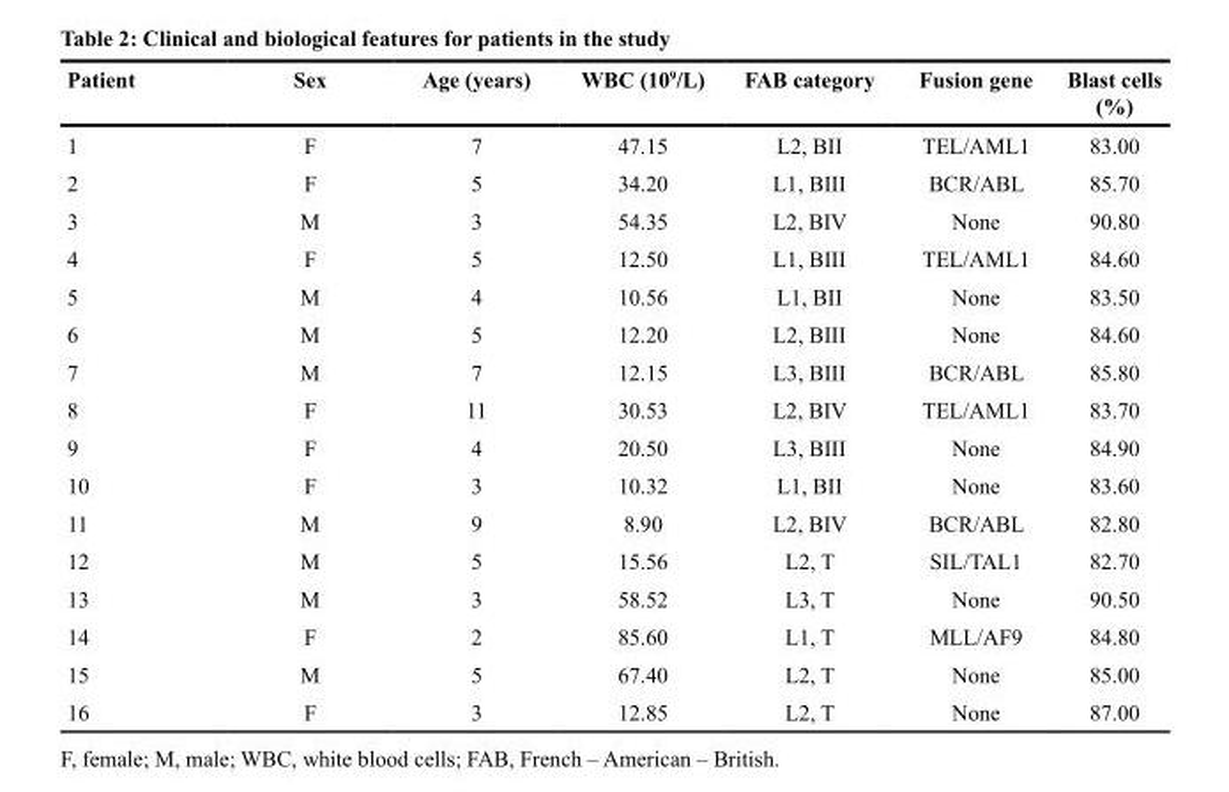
<table><thead><tr><td>Patient</td><td>Sex</td><td>Age (years)</td><td>WBC (10<sup>9</sup>/L)</td><td>FAB category</td><td>Fusion gene</td><td>Blast cells (%)</td></tr></thead><tbody><tr><td>1</td><td>F</td><td>7</td><td>47.15</td><td>L2, BII</td><td>TEL/AML1</td><td>83.00</td></tr><tr><td>2</td><td>F</td><td>5</td><td>34.20</td><td>L1, BIII</td><td>BCR/ABL</td><td>85.70</td></tr><tr><td>3</td><td>M</td><td>3</td><td>54.35</td><td>L2, BIV</td><td>None</td><td>90.80</td></tr><tr><td>4</td><td>F</td><td>5</td><td>12.50</td><td>L1, BIII</td><td>TEL/AML1</td><td>84.60</td></tr><tr><td>5</td><td>M</td><td>4</td><td>10.56</td><td>L1, BII</td><td>None</td><td>83.50</td></tr><tr><td>6</td><td>M</td><td>5</td><td>12.20</td><td>L2, BIII</td><td>None</td><td>84.60</td></tr><tr><td>7</td><td>M</td><td>7</td><td>12.15</td><td>L3, BIII</td><td>BCR/ABL</td><td>85.80</td></tr><tr><td>8</td><td>F</td><td>11</td><td>30.53</td><td>L2, BIV</td><td>TEL/AML1</td><td>83.70</td></tr><tr><td>9</td><td>F</td><td>4</td><td>20.50</td><td>L3, BIII</td><td>None</td><td>84.90</td></tr><tr><td>10</td><td>F</td><td>3</td><td>10.32</td><td>L1, BII</td><td>None</td><td>83.60</td></tr><tr><td>11</td><td>M</td><td>9</td><td>8.90</td><td>L2, BIV</td><td>BCR/ABL</td><td>82.80</td></tr><tr><td>12</td><td>M</td><td>5</td><td>15.56</td><td>L2, T</td><td>SIL/TAL1</td><td>82.70</td></tr><tr><td>13</td><td>M</td><td>3</td><td>58.52</td><td>L3, T</td><td>None</td><td>90.50</td></tr><tr><td>14</td><td>F</td><td>2</td><td>85.60</td><td>L1, T</td><td>MLL/AF9</td><td>84.80</td></tr><tr><td>15</td><td>M</td><td>5</td><td>67.40</td><td>L2, T</td><td>None</td><td>85.00</td></tr><tr><td>16</td><td>F</td><td>3</td><td>12.85</td><td>L2, T</td><td>None</td><td>87.00</td></tr></tbody></table>